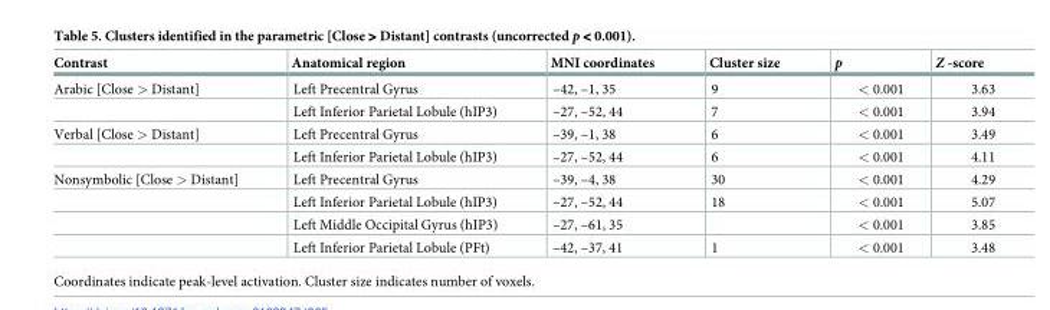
<table><thead><tr><td>Contrast</td><td>Anatomical region</td><td>MNI coordinates</td><td>Cluster size</td><td>p</td><td>Z -score</td></tr></thead><tbody><tr><td rowspan="2">Arabic [Close &gt; Distant]</td><td>Left Precentral Gyrus</td><td>–42, –1, 35</td><td>9</td><td>&lt; 0.001</td><td>3.63</td></tr><tr><td>Left Inferior Parietal Lobule (hIP3)</td><td>–27, –52, 44</td><td>7</td><td>&lt; 0.001</td><td>3.94</td></tr><tr><td rowspan="2">Verbal [Close &gt; Distant]</td><td>Left Precentral Gyrus</td><td>–39, –1, 38</td><td>6</td><td>&lt; 0.001</td><td>3.49</td></tr><tr><td>Left Inferior Parietal Lobule (hIP3)</td><td>–27, –52, 44</td><td>6</td><td>&lt; 0.001</td><td>4.11</td></tr><tr><td rowspan="4">Nonsymbolic [Close &gt; Distant]</td><td>Left Precentral Gyrus</td><td>–39, –4, 38</td><td>30</td><td>&lt; 0.001</td><td>4.29</td></tr><tr><td>Left Inferior Parietal Lobule (hIP3)</td><td>–27, –52, 44</td><td>18</td><td>&lt; 0.001</td><td>5.07</td></tr><tr><td>Left Middle Occipital Gyrus (hIP3)</td><td>–27, –61, 35</td><td></td><td>&lt; 0.001</td><td>3.85</td></tr><tr><td>Left Inferior Parietal Lobule (PFt)</td><td>–42, –37, 41</td><td>1</td><td>&lt; 0.001</td><td>3.48</td></tr></tbody></table>